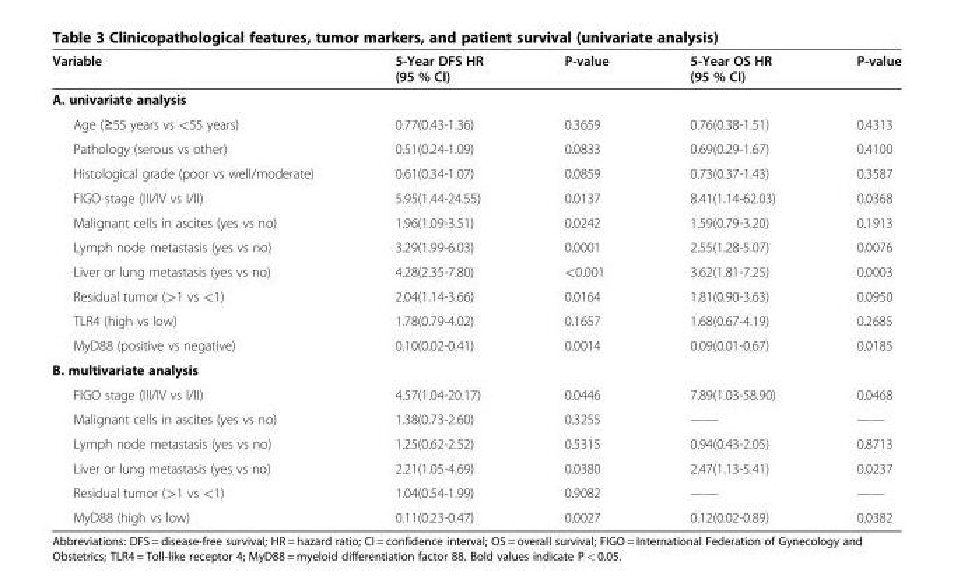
<table><thead><tr><td>Variable</td><td>5-Year DFS HR (95 % CI)</td><td>P-value</td><td>5-Year OS HR (95 % CI)</td><td>P-value</td></tr></thead><tbody><tr><td colspan="5">A. univariate analysis</td></tr><tr><td>Age (≥55 years vs &lt;55 years)</td><td>0.77(0.43-1.36)</td><td>0.3659</td><td>0.76(0.38-1.51)</td><td>0.4313</td></tr><tr><td>Pathology (serous vs other)</td><td>0.51(0.24-1.09)</td><td>0.0833</td><td>0.69(0.29-1.67)</td><td>0.4100</td></tr><tr><td>Histological grade (poor vs well/moderate)</td><td>0.61(0.34-1.07)</td><td>0.0859</td><td>0.73(0.37-1.43)</td><td>0.3587</td></tr><tr><td>FIGO stage (III/IV vs I/II)</td><td>5.95(1.44-24.55)</td><td>0.0137</td><td>8.41(1.14-62.03)</td><td>0.0368</td></tr><tr><td>Malignant cells in ascites (yes vs no)</td><td>1.96(1.09-3.51)</td><td>0.0242</td><td>1.59(0.79-3.20)</td><td>0.1913</td></tr><tr><td>Lymph node metastasis (yes vs no)</td><td>3.29(1.99-6.03)</td><td>0.0001</td><td>2.55(1.28-5.07)</td><td>0.0076</td></tr><tr><td>Liver or lung metastasis (yes vs no)</td><td>4.28(2.35-7.80)</td><td>&lt;0.001</td><td>3.62(1.81-7.25)</td><td>0.0003</td></tr><tr><td>Residual tumor (&gt;1 vs &lt;1)</td><td>2.04(1.14-3.66)</td><td>0.0164</td><td>1.81(0.90-3.63)</td><td>0.0950</td></tr><tr><td>TLR4 (high vs low)</td><td>1.78(0.79-4.02)</td><td>0.1657</td><td>1.68(0.67-4.19)</td><td>0.2685</td></tr><tr><td>MyD88 (positive vs negative)</td><td>0.10(0.02-0.41)</td><td>0.0014</td><td>0.09(0.01-0.67)</td><td>0.0185</td></tr><tr><td colspan="5">B. multivariate analysis</td></tr><tr><td>FIGO stage (III/IV vs I/II)</td><td>4.57(1.04-20.17)</td><td>0.0446</td><td>7.89(1.03-58.90)</td><td>0.0468</td></tr><tr><td>Malignant cells in ascites (yes vs no)</td><td>1.38(0.73-2.60)</td><td>0.3255</td><td>——</td><td>——</td></tr><tr><td>Lymph node metastasis (yes vs no)</td><td>1.25(0.62-2.52)</td><td>0.5315</td><td>0.94(0.43-2.05)</td><td>0.8713</td></tr><tr><td>Liver or lung metastasis (yes vs no)</td><td>2.21(1.05-4.69)</td><td>0.0380</td><td>2.47(1.13-5.41)</td><td>0.0237</td></tr><tr><td>Residual tumor (&gt;1 vs &lt;1)</td><td>1.04(0.54-1.99)</td><td>0.9082</td><td>——</td><td>——</td></tr><tr><td>MyD88 (high vs low)</td><td>0.11(0.23-0.47)</td><td>0.0027</td><td>0.12(0.02-0.89)</td><td>0.0382</td></tr></tbody></table>